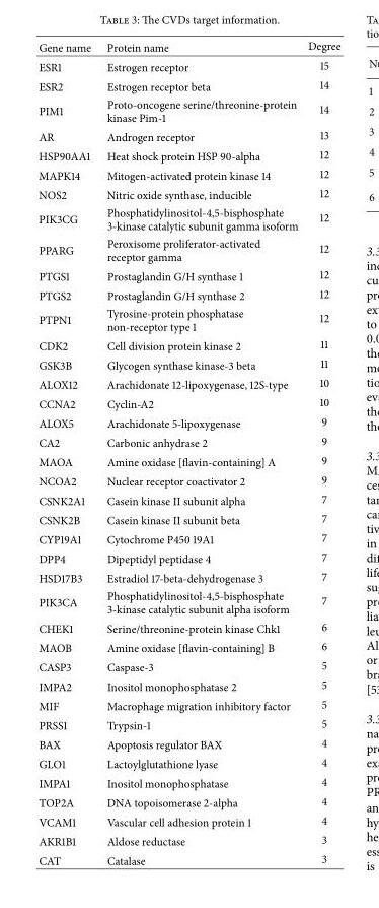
<table><thead><tr><td>Gene name</td><td>Protein name</td><td>Degree</td></tr></thead><tbody><tr><td>ESR1</td><td>Estrogen receptor</td><td>15</td></tr><tr><td>ESR2</td><td>Estrogen receptor beta</td><td>14</td></tr><tr><td>PIM1</td><td>Proto-oncogene serine/threonine-protein kinase Pim-1</td><td>14</td></tr><tr><td>AR</td><td>Androgen receptor</td><td>13</td></tr><tr><td>HSP90AA1</td><td>Heat shock protein HSP 90-alpha</td><td>12</td></tr><tr><td>MAPK14</td><td>Mitogen-activated protein kinase 14</td><td>12</td></tr><tr><td>NOS2</td><td>Nitric oxide synthase, inducible</td><td>12</td></tr><tr><td>PIK3CG</td><td>Phosphatidylinositol-4,5-bisphosphate 3-kinase catalytic subunit gamma isoform</td><td>12</td></tr><tr><td>PPARG</td><td>Peroxisome proliferator-activated receptor gamma</td><td>12</td></tr><tr><td>PTGS1</td><td>Prostaglandin G/H synthase 1</td><td>12</td></tr><tr><td>PTGS2</td><td>Prostaglandin G/H synthase 2</td><td>12</td></tr><tr><td>PTPN1</td><td>Tyrosine-protein phosphatase non-receptor type 1</td><td>12</td></tr><tr><td>CDK2</td><td>Cell division protein kinase 2</td><td>11</td></tr><tr><td>GSK3B</td><td>Glycogen synthase kinase-3 beta</td><td>11</td></tr><tr><td>ALOX12</td><td>Arachidonate 12-lipoxygenase, 12S-type</td><td>10</td></tr><tr><td>CCNA2</td><td>Cyclin-A2</td><td>10</td></tr><tr><td>ALOX5</td><td>Arachidonate 5-lipoxygenase</td><td>9</td></tr><tr><td>CA2</td><td>Carbonic anhydrase 2</td><td>9</td></tr><tr><td>MAOA</td><td>Amine oxidase [flavin-containing] A</td><td>9</td></tr><tr><td>NCOA2</td><td>Nuclear receptor coactivator 2</td><td>9</td></tr><tr><td>CSNK2A1</td><td>Casein kinase II subunit alpha</td><td>7</td></tr><tr><td>CSNK2B</td><td>Casein kinase II subunit beta</td><td>7</td></tr><tr><td>CYP19A1</td><td>Cytochrome P450 19A1</td><td>7</td></tr><tr><td>DPP4</td><td>Dipeptidyl peptidase 4</td><td>7</td></tr><tr><td>HSD17B3</td><td>Estradiol 17-beta-dehydrogenase 3</td><td>7</td></tr><tr><td>PIK3CA</td><td>Phosphatidylinositol-4,5-bisphosphate 3-kinase catalytic subunit alpha isoform</td><td>7</td></tr><tr><td>CHEK1</td><td>Serine/threonine-protein kinase Chk1</td><td>6</td></tr><tr><td>MAOB</td><td>Amine oxidase [flavin-containing] B</td><td>6</td></tr><tr><td>CASP3</td><td>Caspase-3</td><td>5</td></tr><tr><td>IMPA2</td><td>Inositol monophosphatase 2</td><td>5</td></tr><tr><td>MIF</td><td>Macrophage migration inhibitory factor</td><td>5</td></tr><tr><td>PRSS1</td><td>Trypsin-1</td><td>5</td></tr><tr><td>BAX</td><td>Apoptosis regulator BAX</td><td>4</td></tr><tr><td>GLO1</td><td>Lactoylglutathione lyase</td><td>4</td></tr><tr><td>IMPA1</td><td>Inositol monophosphatase</td><td>4</td></tr><tr><td>TOP2A</td><td>DNA topoisomerase 2-alpha</td><td>4</td></tr><tr><td>VCAM1</td><td>Vascular cell adhesion protein 1</td><td>4</td></tr><tr><td>AKR1B1</td><td>Aldose reductase</td><td>3</td></tr><tr><td>CAT</td><td>Catalase</td><td>3</td></tr></tbody></table>